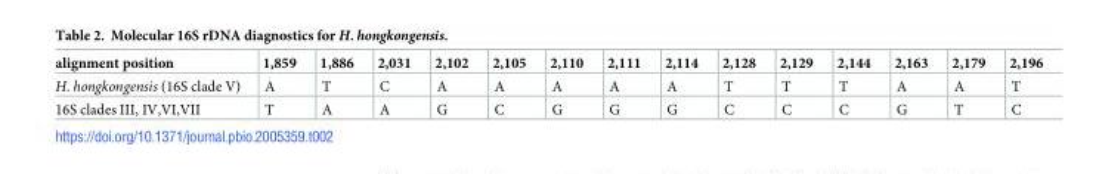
<table><thead><tr><td>alignment position</td><td>1,859</td><td>1,886</td><td>2,031</td><td>2,102</td><td>2,105</td><td>2,110</td><td>2,111</td><td>2,114</td><td>2,128</td><td>2,129</td><td>2,144</td><td>2,163</td><td>2,179</td><td>2,196</td></tr></thead><tbody><tr><td>H. hongkongensis (16S clade V)</td><td>A</td><td>T</td><td>C</td><td>A</td><td>A</td><td>A</td><td>A</td><td>A</td><td>T</td><td>T</td><td>T</td><td>A</td><td>A</td><td>T</td></tr><tr><td>16S clades III, IV,VI,VII</td><td>T</td><td>A</td><td>A</td><td>G</td><td>C</td><td>G</td><td>G</td><td>G</td><td>C</td><td>C</td><td>C</td><td>G</td><td>T</td><td>C</td></tr></tbody></table>